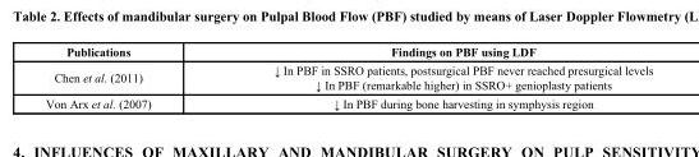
<table><thead><tr><td>Publications</td><td>Findings on PBF using LDF</td></tr></thead><tbody><tr><td>Chen et al. (2011)</td><td>↓ In PBF in SSRO patients, postsurgical PBF never reached presurgical levels ↓ In PBF (remarkable higher) in SSRO+ genioplasty patients</td></tr><tr><td>Von Arx et al. (2007)</td><td>↓ In PBF during bone harvesting in symphysis region</td></tr></tbody></table>